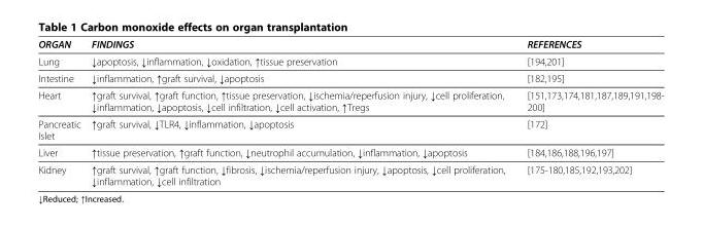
<table><thead><tr><td>ORGAN</td><td>FINDINGS</td><td>REFERENCES</td></tr></thead><tbody><tr><td>Lung</td><td>↓apoptosis, ↓inflammation, ↓oxidation, ↑tissue preservation</td><td>[194,201]</td></tr><tr><td>Intestine</td><td>↓inflammation, ↑graft survival, ↓apoptosis</td><td>[182,195]</td></tr><tr><td>Heart</td><td>↑graft survival, ↑graft function, ↑tissue preservation, ↓ischemia/reperfusion injury, ↓cell proliferation, ↓inflammation, ↓apoptosis, ↓cell infiltration, ↓cell activation, ↑Tregs</td><td>[151,173,174,181,187,189,191,198- 200]</td></tr><tr><td>Pancreatic Islet</td><td>↑graft survival, ↓TLR4, ↓inflammation, ↓apoptosis</td><td>[172]</td></tr><tr><td>Liver</td><td>↑tissue preservation, ↑graft function, ↓neutrophil accumulation, ↓inflammation, ↓apoptosis</td><td>[184,186,188,196,197]</td></tr><tr><td>Kidney</td><td>↑graft survival, ↑graft function, ↓fibrosis, ↓ischemia/reperfusion injury, ↓apoptosis, ↓cell proliferation, ↓inflammation, ↓cell infiltration</td><td>[175-180,185,192,193,202]</td></tr></tbody></table>